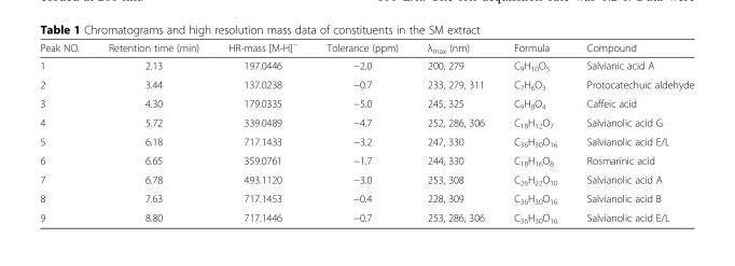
<table><thead><tr><td>Peak NO.</td><td>Retention time (min)</td><td>HR-mass [M-H]<sup>−</sup></td><td>Tolerance (ppm)</td><td>λ<sub>max</sub> (nm)</td><td>Formula</td><td>Compound</td></tr></thead><tbody><tr><td>1</td><td>2.13</td><td>197.0446</td><td>−2.0</td><td>200, 279</td><td>C<sub>9</sub>H<sub>10</sub>O<sub>5</sub></td><td>Salvianic acid A</td></tr><tr><td>2</td><td>3.44</td><td>137.0238</td><td>−0.7</td><td>233, 279, 311</td><td>C<sub>7</sub>H<sub>6</sub>O<sub>3</sub></td><td>Protocatechuic aldehyde</td></tr><tr><td>3</td><td>4.30</td><td>179.0335</td><td>−5.0</td><td>245, 325</td><td>C<sub>9</sub>H<sub>8</sub>O<sub>4</sub></td><td>Caffeic acid</td></tr><tr><td>4</td><td>5.72</td><td>339.0489</td><td>−4.7</td><td>252, 286, 306</td><td>C<sub>18</sub>H<sub>12</sub>O<sub>7</sub></td><td>Salvianolic acid G</td></tr><tr><td>5</td><td>6.18</td><td>717.1433</td><td>−3.2</td><td>247, 330</td><td>C<sub>36</sub>H<sub>30</sub>O<sub>16</sub></td><td>Salvianolic acid E/L</td></tr><tr><td>6</td><td>6.65</td><td>359.0761</td><td>−1.7</td><td>244, 330</td><td>C<sub>18</sub>H<sub>16</sub>O<sub>8</sub></td><td>Rosmarinic acid</td></tr><tr><td>7</td><td>6.78</td><td>493.1120</td><td>−3.0</td><td>253, 308</td><td>C<sub>26</sub>H<sub>22</sub>O<sub>10</sub></td><td>Salvianolic acid A</td></tr><tr><td>8</td><td>7.63</td><td>717.1453</td><td>−0.4</td><td>228, 309</td><td>C<sub>36</sub>H<sub>30</sub>O<sub>16</sub></td><td>Salvianolic acid B</td></tr><tr><td>9</td><td>8.80</td><td>717.1446</td><td>−0.7</td><td>253, 286, 306</td><td>C<sub>36</sub>H<sub>30</sub>O<sub>16</sub></td><td>Salvianolic acid E/L</td></tr></tbody></table>